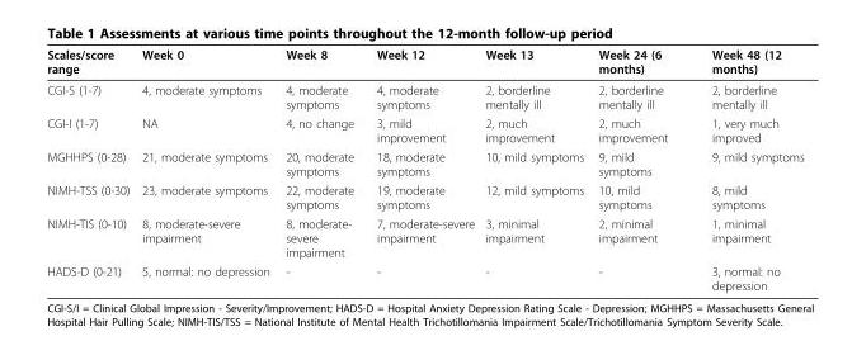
<table><thead><tr><td>Scales/score range</td><td>Week 0</td><td>Week 8</td><td>Week 12</td><td>Week 13</td><td>Week 24 (6 months)</td><td>Week 48 (12 months)</td></tr></thead><tbody><tr><td>CGI-S (1-7)</td><td>4, moderate symptoms</td><td>4, moderate symptoms</td><td>4, moderate symptoms</td><td>2, borderline mentally ill</td><td>2, borderline mentally ill</td><td>2, borderline mentally ill</td></tr><tr><td>CGI-I (1-7)</td><td>NA</td><td>4, no change</td><td>3, mild improvement</td><td>2, much improvement</td><td>2, much improvement</td><td>1, very much improved</td></tr><tr><td>MGHHPS (0-28)</td><td>21, moderate symptoms</td><td>20, moderate symptoms</td><td>18, moderate symptoms</td><td>10, mild symptoms</td><td>9, mild symptoms</td><td>9, mild symptoms</td></tr><tr><td>NIMH-TSS (0-30)</td><td>23, moderate symptoms</td><td>22, moderate symptoms</td><td>19, moderate symptoms</td><td>12, mild symptoms</td><td>10, mild symptoms</td><td>8, mild symptoms</td></tr><tr><td>NIMH-TIS (0-10)</td><td>8, moderate-severe impairment</td><td>8, moderate- severe impairment</td><td>7, moderate-severe impairment</td><td>3, minimal impairment</td><td>2, minimal impairment</td><td>1, minimal impairment</td></tr><tr><td>HADS-D (0-21)</td><td>5, normal: no depression</td><td>-</td><td>-</td><td>-</td><td>-</td><td>3, normal: no depression</td></tr></tbody></table>